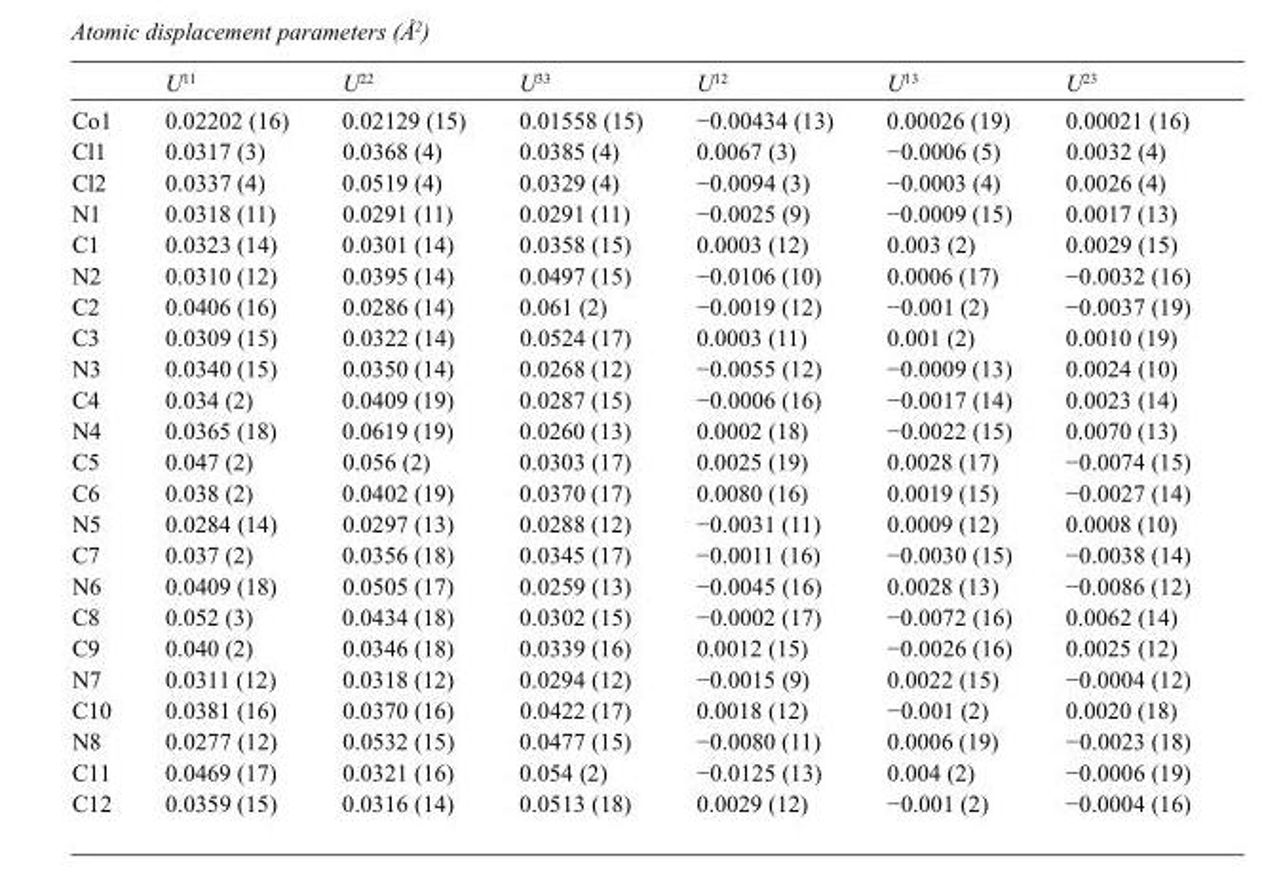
<table><thead><tr><td></td><td>U<sup>11</sup></td><td>U<sup>22</sup></td><td>U<sup>33</sup></td><td>U<sup>12</sup></td><td>U<sup>13</sup></td><td>U<sup>23</sup></td></tr></thead><tbody><tr><td>Co1</td><td>0.02202 (16)</td><td>0.02129 (15)</td><td>0.01558 (15)</td><td>−0.00434 (13)</td><td>0.00026 (19)</td><td>0.00021 (16)</td></tr><tr><td>Cl1</td><td>0.0317 (3)</td><td>0.0368 (4)</td><td>0.0385 (4)</td><td>0.0067 (3)</td><td>−0.0006 (5)</td><td>0.0032 (4)</td></tr><tr><td>Cl2</td><td>0.0337 (4)</td><td>0.0519 (4)</td><td>0.0329 (4)</td><td>−0.0094 (3)</td><td>−0.0003 (4)</td><td>0.0026 (4)</td></tr><tr><td>N1</td><td>0.0318 (11)</td><td>0.0291 (11)</td><td>0.0291 (11)</td><td>−0.0025 (9)</td><td>−0.0009 (15)</td><td>0.0017 (13)</td></tr><tr><td>C1</td><td>0.0323 (14)</td><td>0.0301 (14)</td><td>0.0358 (15)</td><td>0.0003 (12)</td><td>0.003 (2)</td><td>0.0029 (15)</td></tr><tr><td>N2</td><td>0.0310 (12)</td><td>0.0395 (14)</td><td>0.0497 (15)</td><td>−0.0106 (10)</td><td>0.0006 (17)</td><td>−0.0032 (16)</td></tr><tr><td>C2</td><td>0.0406 (16)</td><td>0.0286 (14)</td><td>0.061 (2)</td><td>−0.0019 (12)</td><td>−0.001 (2)</td><td>−0.0037 (19)</td></tr><tr><td>C3</td><td>0.0309 (15)</td><td>0.0322 (14)</td><td>0.0524 (17)</td><td>0.0003 (11)</td><td>0.001 (2)</td><td>0.0010 (19)</td></tr><tr><td>N3</td><td>0.0340 (15)</td><td>0.0350 (14)</td><td>0.0268 (12)</td><td>−0.0055 (12)</td><td>−0.0009 (13)</td><td>0.0024 (10)</td></tr><tr><td>C4</td><td>0.034 (2)</td><td>0.0409 (19)</td><td>0.0287 (15)</td><td>−0.0006 (16)</td><td>−0.0017 (14)</td><td>0.0023 (14)</td></tr><tr><td>N4</td><td>0.0365 (18)</td><td>0.0619 (19)</td><td>0.0260 (13)</td><td>0.0002 (18)</td><td>−0.0022 (15)</td><td>0.0070 (13)</td></tr><tr><td>C5</td><td>0.047 (2)</td><td>0.056 (2)</td><td>0.0303 (17)</td><td>0.0025 (19)</td><td>0.0028 (17)</td><td>−0.0074 (15)</td></tr><tr><td>C6</td><td>0.038 (2)</td><td>0.0402 (19)</td><td>0.0370 (17)</td><td>0.0080 (16)</td><td>0.0019 (15)</td><td>−0.0027 (14)</td></tr><tr><td>N5</td><td>0.0284 (14)</td><td>0.0297 (13)</td><td>0.0288 (12)</td><td>−0.0031 (11)</td><td>0.0009 (12)</td><td>0.0008 (10)</td></tr><tr><td>C7</td><td>0.037 (2)</td><td>0.0356 (18)</td><td>0.0345 (17)</td><td>−0.0011 (16)</td><td>−0.0030 (15)</td><td>−0.0038 (14)</td></tr><tr><td>N6</td><td>0.0409 (18)</td><td>0.0505 (17)</td><td>0.0259 (13)</td><td>−0.0045 (16)</td><td>0.0028 (13)</td><td>−0.0086 (12)</td></tr><tr><td>C8</td><td>0.052 (3)</td><td>0.0434 (18)</td><td>0.0302 (15)</td><td>−0.0002 (17)</td><td>−0.0072 (16)</td><td>0.0062 (14)</td></tr><tr><td>C9</td><td>0.040 (2)</td><td>0.0346 (18)</td><td>0.0339 (16)</td><td>0.0012 (15)</td><td>−0.0026 (16)</td><td>0.0025 (12)</td></tr><tr><td>N7</td><td>0.0311 (12)</td><td>0.0318 (12)</td><td>0.0294 (12)</td><td>−0.0015 (9)</td><td>0.0022 (15)</td><td>−0.0004 (12)</td></tr><tr><td>C10</td><td>0.0381 (16)</td><td>0.0370 (16)</td><td>0.0422 (17)</td><td>0.0018 (12)</td><td>−0.001 (2)</td><td>0.0020 (18)</td></tr><tr><td>N8</td><td>0.0277 (12)</td><td>0.0532 (15)</td><td>0.0477 (15)</td><td>−0.0080 (11)</td><td>0.0006 (19)</td><td>−0.0023 (18)</td></tr><tr><td>C11</td><td>0.0469 (17)</td><td>0.0321 (16)</td><td>0.054 (2)</td><td>−0.0125 (13)</td><td>0.004 (2)</td><td>−0.0006 (19)</td></tr><tr><td>C12</td><td>0.0359 (15)</td><td>0.0316 (14)</td><td>0.0513 (18)</td><td>0.0029 (12)</td><td>−0.001 (2)</td><td>−0.0004 (16)</td></tr></tbody></table>